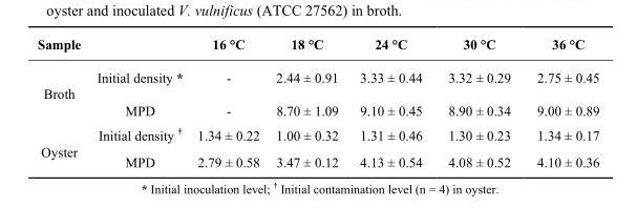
<table><thead><tr><td>Sample</td><td></td><td>16 °C</td><td>18 °C</td><td>24 °C</td><td>30 °C</td><td>36 °C</td></tr></thead><tbody><tr><td rowspan="2">Broth</td><td>Initial density *</td><td>-</td><td>2.44 ± 0.91</td><td>3.33 ± 0.44</td><td>3.32 ± 0.29</td><td>2.75 ± 0.45</td></tr><tr><td>MPD</td><td>-</td><td>8.70 ± 1.09</td><td>9.10 ± 0.45</td><td>8.90 ± 0.34</td><td>9.00 ± 0.89</td></tr><tr><td rowspan="2">Oyster</td><td>Initial density <sup>†</sup></td><td>1.34 ± 0.22</td><td>1.00 ± 0.32</td><td>1.31 ± 0.46</td><td>1.30 ± 0.23</td><td>1.34 ± 0.17</td></tr><tr><td>MPD</td><td>2.79 ± 0.58</td><td>3.47 ± 0.12</td><td>4.13 ± 0.54</td><td>4.08 ± 0.52</td><td>4.10 ± 0.36</td></tr></tbody></table>